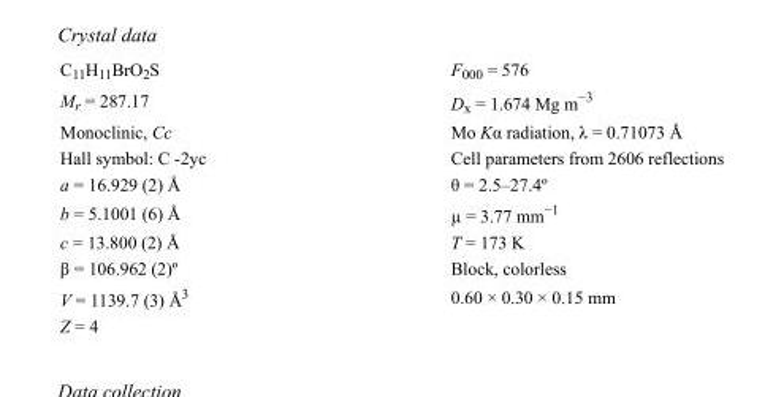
<table><tbody><tr><td>C<sub>11</sub>H<sub>11</sub>BrO<sub>2</sub>S</td><td>F000 = 576</td></tr><tr><td>M<sub>r</sub> = 287.17</td><td>D<sub>x</sub> = 1.674 Mg m<sup>−3</sup></td></tr><tr><td>Monoclinic, Cc</td><td>Mo Kα radiation, λ = 0.71073 Å</td></tr><tr><td>Hall symbol: C -2yc</td><td>Cell parameters from 2606 reflections</td></tr><tr><td>a = 16.929 (2) Å</td><td>θ = 2.5–27.4º</td></tr><tr><td>b = 5.1001 (6) Å</td><td>µ = 3.77 mm<sup>−1</sup></td></tr><tr><td>c = 13.800 (2) Å</td><td>T = 173 K</td></tr><tr><td>β = 106.962 (2)º</td><td>Block, colorless</td></tr><tr><td>V = 1139.7 (3) Å<sup>3</sup></td><td>0.60 × 0.30 × 0.15 mm</td></tr><tr><td>Z = 4</td><td></td></tr></tbody></table>